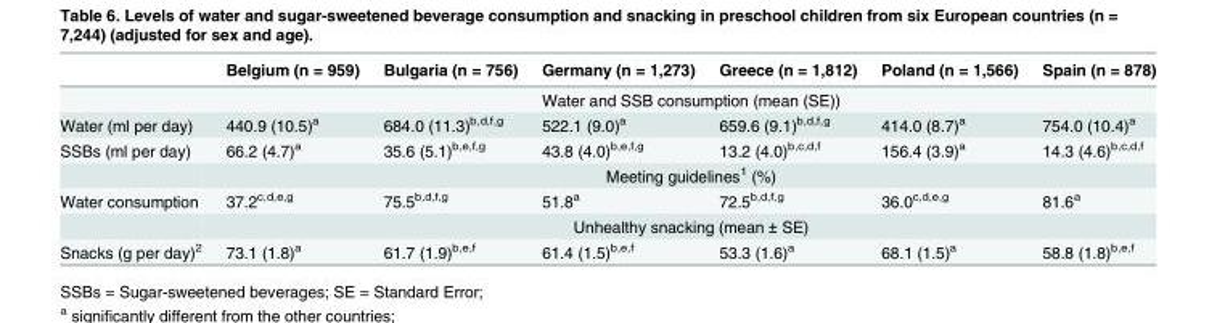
<table><thead><tr><td></td><td>Belgium (n = 959)</td><td>Bulgaria (n = 756)</td><td>Germany (n = 1,273)</td><td>Greece (n = 1,812)</td><td>Poland (n = 1,566)</td><td>Spain (n = 878)</td></tr></thead><tbody><tr><td></td><td colspan="6">Water and SSB consumption (mean (SE))</td></tr><tr><td>Water (ml per day)</td><td>440.9 (10.5)<sup>a</sup></td><td>684.0 (11.3)<sup>b,d,f,g</sup></td><td>522.1 (9.0)<sup>a</sup></td><td>659.6 (9.1)<sup>b,d,f,g</sup></td><td>414.0 (8.7)<sup>a</sup></td><td>754.0 (10.4)<sup>a</sup></td></tr><tr><td rowspan="2">SSBs (ml per day)</td><td>66.2 (4.7)<sup>a</sup></td><td>35.6 (5.1)<sup>b,e,f,g</sup></td><td>43.8 (4.0)<sup>b,e,f,g</sup></td><td>13.2 (4.0)<sup>b,c,d,f</sup></td><td>156.4 (3.9)<sup>a</sup></td><td>14.3 (4.6)<sup>b,c,d,f</sup></td></tr><tr><td colspan="6">Meeting guidelines<sup>1</sup> (%)</td></tr><tr><td rowspan="2">Water consumption</td><td>37.2<sup>c,d,e,g</sup></td><td>75.5<sup>b,d,f,g</sup></td><td>51.8<sup>a</sup></td><td>72.5<sup>b,d,f,g</sup></td><td>36.0<sup>c,d,e,g</sup></td><td>81.6<sup>a</sup></td></tr><tr><td colspan="6">Unhealthy snacking (mean ± SE)</td></tr><tr><td>Snacks (g per day)<sup>2</sup></td><td>73.1 (1.8)<sup>a</sup></td><td>61.7 (1.9)<sup>b,e,f</sup></td><td>61.4 (1.5)<sup>b,e,f</sup></td><td>53.3 (1.6)<sup>a</sup></td><td>68.1 (1.5)<sup>a</sup></td><td>58.8 (1.8)<sup>b,e,f</sup></td></tr></tbody></table>